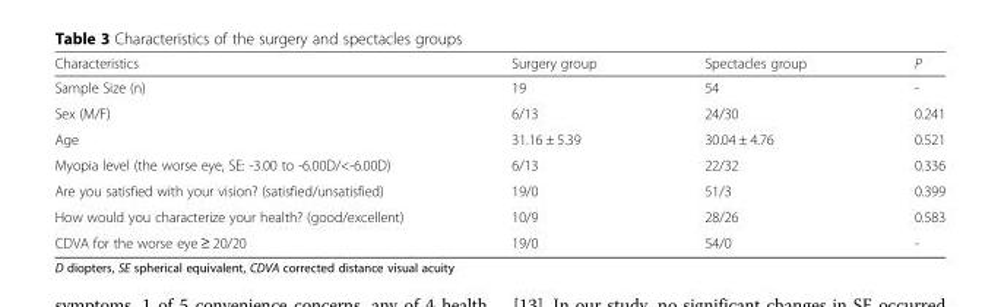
<table><thead><tr><td>Characteristics</td><td>Surgery group</td><td>Spectacles group</td><td>P</td></tr></thead><tbody><tr><td>Sample Size (n)</td><td>19</td><td>54</td><td>-</td></tr><tr><td>Sex (M/F)</td><td>6/13</td><td>24/30</td><td>0.241</td></tr><tr><td>Age</td><td>31.16 ± 5.39</td><td>30.04 ± 4.76</td><td>0.521</td></tr><tr><td>Myopia level (the worse eye, SE: -3.00 to -6.00D/&lt;-6.00D)</td><td>6/13</td><td>22/32</td><td>0.336</td></tr><tr><td>Are you satisfied with your vision? (satisfied/unsatisfied)</td><td>19/0</td><td>51/3</td><td>0.399</td></tr><tr><td>How would you characterize your health? (good/excellent)</td><td>10/9</td><td>28/26</td><td>0.583</td></tr><tr><td>CDVA for the worse eye ≥ 20/20</td><td>19/0</td><td>54/0</td><td>-</td></tr></tbody></table>